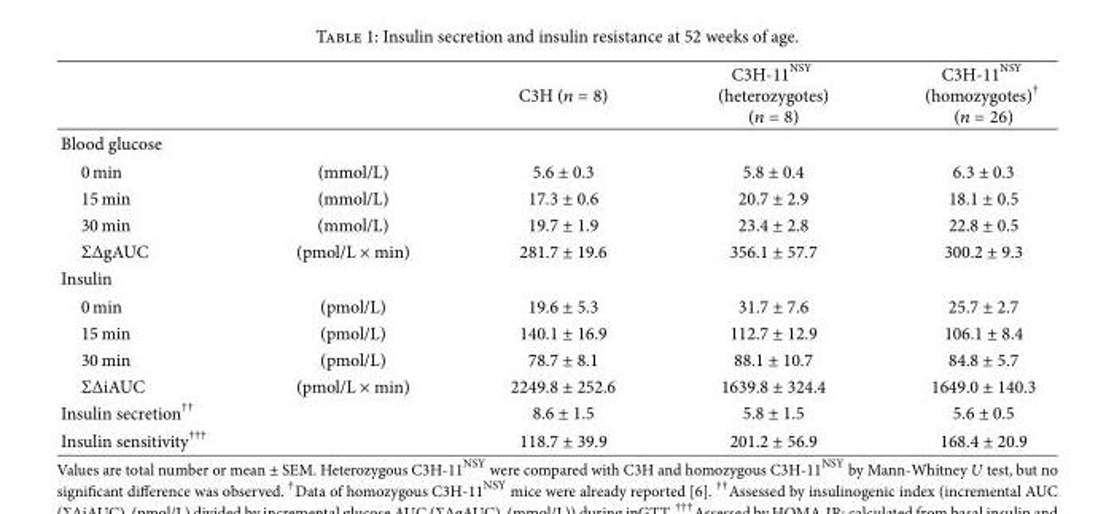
<table><thead><tr><td></td><td></td><td>C3H (𝑛𝑛 𝑛 𝑛)</td><td>C3H-11NSY (heterozygotes) (𝑛𝑛 𝑛 𝑛)</td><td>C3H-11NSY (homozygotes)† (𝑛𝑛 𝑛 𝑛𝑛)</td></tr></thead><tbody><tr><td colspan="5">Blood glucose</td></tr><tr><td>0 min</td><td>(mmol/L)</td><td>5.6 ± 0.3</td><td>5.8 ± 0.4</td><td>6.3 ± 0.3</td></tr><tr><td>15 min</td><td>(mmol/L)</td><td>17.3 ± 0.6</td><td>20.7 ± 2.9</td><td>18.1 ± 0.5</td></tr><tr><td>30 min</td><td>(mmol/L)</td><td>19.7 ± 1.9</td><td>23.4 ± 2.8</td><td>22.8 ± 0.5</td></tr><tr><td>ΣΔgAUC</td><td>(pmol/L × min)</td><td>281.7 ± 19.6</td><td>356.1 ± 57.7</td><td>300.2 ± 9.3</td></tr><tr><td colspan="5">Insulin</td></tr><tr><td>0 min</td><td>(pmol/L)</td><td>19.6 ± 5.3</td><td>31.7 ± 7.6</td><td>25.7 ± 2.7</td></tr><tr><td>15 min</td><td>(pmol/L)</td><td>140.1 ± 16.9</td><td>112.7 ± 12.9</td><td>106.1 ± 8.4</td></tr><tr><td>30 min</td><td>(pmol/L)</td><td>78.7 ± 8.1</td><td>88.1 ± 10.7</td><td>84.8 ± 5.7</td></tr><tr><td>ΣΔiAUC</td><td>(pmol/L × min)</td><td>2249.8 ± 252.6</td><td>1639.8 ± 324.4</td><td>1649.0 ± 140.3</td></tr><tr><td>Insulin secretion<sup>††</sup></td><td></td><td>8.6 ± 1.5</td><td>5.8 ± 1.5</td><td>5.6 ± 0.5</td></tr><tr><td>Insulin sensitivity<sup>†††</sup></td><td></td><td>118.7 ± 39.9</td><td>201.2 ± 56.9</td><td>168.4 ± 20.9</td></tr></tbody></table>